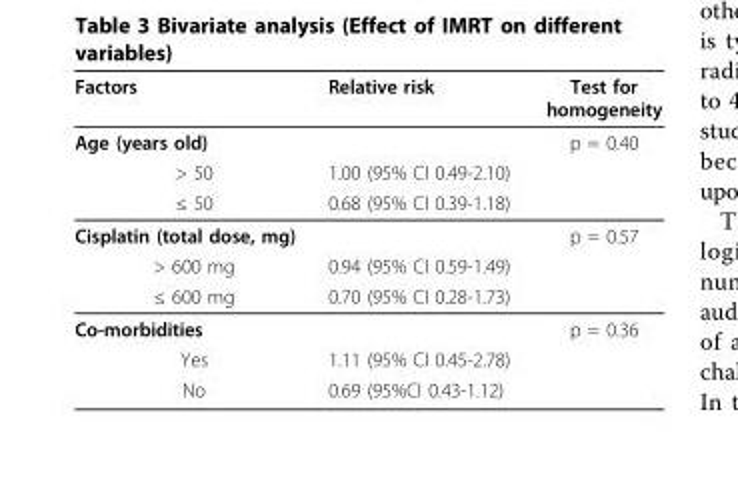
<table><thead><tr><td>Factors</td><td>Relative risk</td><td>Test for homogeneity</td></tr></thead><tbody><tr><td>Age (years old)</td><td></td><td>p = 0.40</td></tr><tr><td>&gt; 50</td><td>1.00 (95% CI 0.49-2.10)</td><td></td></tr><tr><td>≤ 50</td><td>0.68 (95% CI 0.39-1.18)</td><td></td></tr><tr><td>Cisplatin (total dose, mg)</td><td></td><td>p = 0.57</td></tr><tr><td>&gt; 600 mg</td><td>0.94 (95% CI 0.59-1.49)</td><td></td></tr><tr><td>≤ 600 mg</td><td>0.70 (95% CI 0.28-1.73)</td><td></td></tr><tr><td>Co-morbidities</td><td></td><td>p = 0.36</td></tr><tr><td>Yes</td><td>1.11 (95% CI 0.45-2.78)</td><td></td></tr><tr><td>No</td><td>0.69 (95%CI 0.43-1.12)</td><td></td></tr></tbody></table>